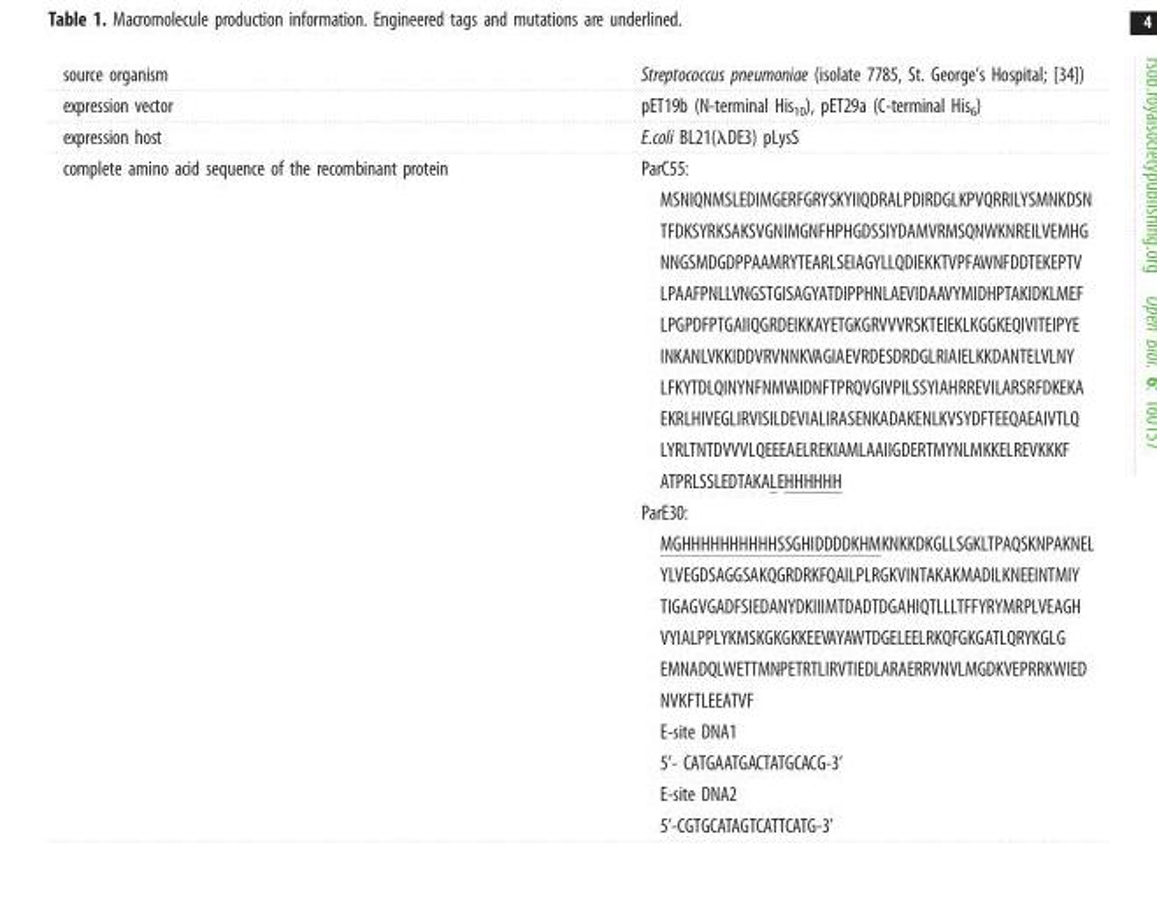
<table><tbody><tr><td>source organism</td><td>Streptococcus pneumoniae (isolate 7785, St. George’s Hospital; [34])</td></tr><tr><td>expression vector</td><td>pET19b (N-terminal His<sub>10</sub>), pET29a (C-terminal His<sub>6</sub>)</td></tr><tr><td>expression host</td><td>E.coli BL21(λDE3) pLysS</td></tr><tr><td>complete amino acid sequence of the recombinant protein</td><td>ParC55: MSNIQNMSLEDIMGERFGRYSKYIIQDRALPDIRDGLKPVQRRILYSMNKDSN TFDKSYRKSAKSVGNIMGNFHPHGDSSIYDAMVRMSQNWKNREILVEMHG NNGSMDGDPPAAMRYTEARLSEIAGYLLQDIEKKTVPFAWNFDDTEKEPTV LPAAFPNLLVNGSTGISAGYATDIPPHNLAEVIDAAVYMIDHPTAKIDKLMEF LPGPDFPTGAIIQGRDEIKKAYETGKGRVVVRSKTEIEKLKGGKEQIVITEIPYE INKANLVKKIDDVRVNNKVAGIAEVRDESDRDGLRIAIELKKDANTELVLNY LFKYTDLQINYNFNMVAIDNFTPRQVGIVPILSSYIAHRREVILARSRFDKEKA EKRLHIVEGLIRVISILDEVIALIRASENKADAKENLKVSYDFTEEQAEAIVTLQ LYRLTNTDVVVLQEEEAELREKIAMLAAIIGDERTMYNLMKKELREVKKKF ATPRLSSLEDTAKALEHHHHHH ParE30: MGHHHHHHHHHHSSGHIDDDDKHMKNKKDKGLLSGKLTPAQSKNPAKNEL YLVEGDSAGGSAKQGRDRKFQAILPLRGKVINTAKAKMADILKNEEINTMIY TIGAGVGADFSIEDANYDKIIIMTDADTDGAHIQTLLLTFFYRYMRPLVEAGH VYIALPPLYKMSKGKGKKEEVAYAWTDGELEELRKQFGKGATLQRYKGLG EMNADQLWETTMNPETRTLIRVTIEDLARAERRVNVLMGDKVEPRRKWIED NVKFTLEEATVF E-site DNA1 5’- CATGAATGACTATGCACG-3’ E-site DNA2 5’-CGTGCATAGTCATTCATG-3’</td></tr></tbody></table>